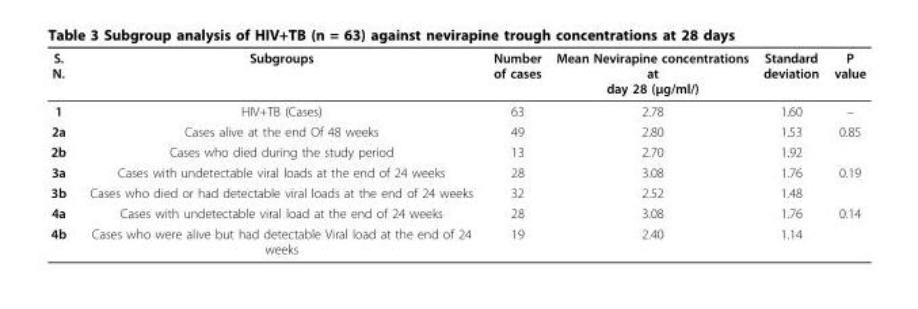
<table><thead><tr><td>S. N.</td><td>Subgroups</td><td>Number of cases</td><td>Mean Nevirapine concentrations at day 28 (μg/ml/)</td><td>Standard deviation</td><td>P value</td></tr></thead><tbody><tr><td>1</td><td>HIV+TB (Cases)</td><td>63</td><td>2.78</td><td>1.60</td><td>–</td></tr><tr><td>2a</td><td>Cases alive at the end Of 48 weeks</td><td>49</td><td>2.80</td><td>1.53</td><td>0.85</td></tr><tr><td>2b</td><td>Cases who died during the study period</td><td>13</td><td>2.70</td><td>1.92</td><td></td></tr><tr><td>3a</td><td>Cases with undetectable viral loads at the end of 24 weeks</td><td>28</td><td>3.08</td><td>1.76</td><td>0.19</td></tr><tr><td>3b</td><td>Cases who died or had detectable viral loads at the end of 24 weeks</td><td>32</td><td>2.52</td><td>1.48</td><td></td></tr><tr><td>4a</td><td>Cases with undetectable viral load at the end of 24 weeks</td><td>28</td><td>3.08</td><td>1.76</td><td>0.14</td></tr><tr><td>4b</td><td>Cases who were alive but had detectable Viral load at the end of 24 weeks</td><td>19</td><td>2.40</td><td>1.14</td><td></td></tr></tbody></table>